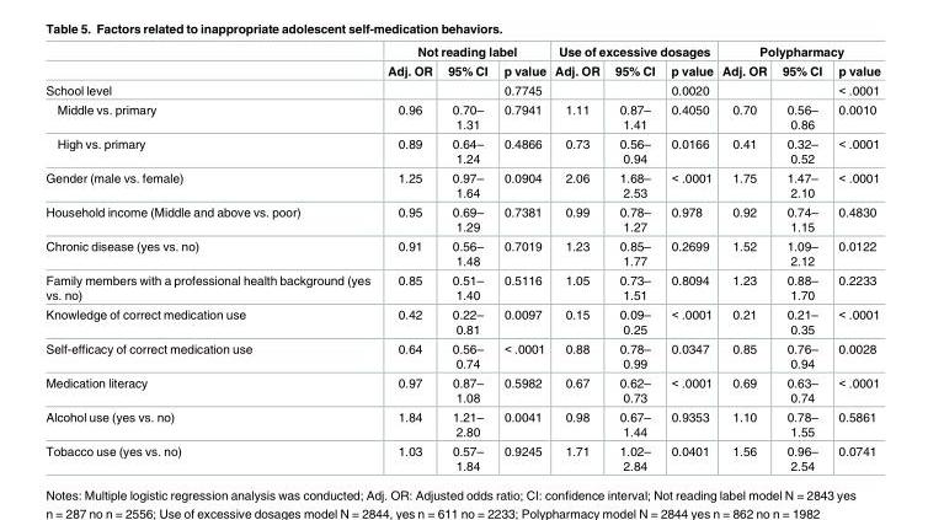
<table><thead><tr><td rowspan="2"></td><td colspan="3">Not reading label</td><td colspan="3">Use of excessive dosages</td><td colspan="3">Polypharmacy</td></tr><tr><td>Adj. OR</td><td>95% CI</td><td>p value</td><td>Adj. OR</td><td>95% CI</td><td>p value</td><td>Adj. OR</td><td>95% CI</td><td>p value</td></tr></thead><tbody><tr><td>School level</td><td></td><td></td><td>0.7745</td><td></td><td></td><td>0.0020</td><td></td><td></td><td>&lt; .0001</td></tr><tr><td>Middle vs. primary</td><td>0.96</td><td>0.70– 1.31</td><td>0.7941</td><td>1.11</td><td>0.87– 1.41</td><td>0.4050</td><td>0.70</td><td>0.56– 0.86</td><td>0.0010</td></tr><tr><td>High vs. primary</td><td>0.89</td><td>0.64– 1.24</td><td>0.4866</td><td>0.73</td><td>0.56– 0.94</td><td>0.0166</td><td>0.41</td><td>0.32– 0.52</td><td>&lt; .0001</td></tr><tr><td>Gender (male vs. female)</td><td>1.25</td><td>0.97– 1.64</td><td>0.0904</td><td>2.06</td><td>1.68– 2.53</td><td>&lt; .0001</td><td>1.75</td><td>1.47– 2.10</td><td>&lt; .0001</td></tr><tr><td>Household income (Middle and above vs. poor)</td><td>0.95</td><td>0.69– 1.29</td><td>0.7381</td><td>0.99</td><td>0.78– 1.27</td><td>0.978</td><td>0.92</td><td>0.74– 1.15</td><td>0.4830</td></tr><tr><td>Chronic disease (yes vs. no)</td><td>0.91</td><td>0.56– 1.48</td><td>0.7019</td><td>1.23</td><td>0.85– 1.77</td><td>0.2699</td><td>1.52</td><td>1.09– 2.12</td><td>0.0122</td></tr><tr><td>Family members with a professional health background (yes vs. no)</td><td>0.85</td><td>0.51– 1.40</td><td>0.5116</td><td>1.05</td><td>0.73– 1.51</td><td>0.8094</td><td>1.23</td><td>0.88– 1.70</td><td>0.2233</td></tr><tr><td>Knowledge of correct medication use</td><td>0.42</td><td>0.22– 0.81</td><td>0.0097</td><td>0.15</td><td>0.09– 0.25</td><td>&lt; .0001</td><td>0.21</td><td>0.21– 0.35</td><td>&lt; .0001</td></tr><tr><td>Self-efficacy of correct medication use</td><td>0.64</td><td>0.56– 0.74</td><td>&lt; .0001</td><td>0.88</td><td>0.78– 0.99</td><td>0.0347</td><td>0.85</td><td>0.76– 0.94</td><td>0.0028</td></tr><tr><td>Medication literacy</td><td>0.97</td><td>0.87– 1.08</td><td>0.5982</td><td>0.67</td><td>0.62– 0.73</td><td>&lt; .0001</td><td>0.69</td><td>0.63– 0.74</td><td>&lt; .0001</td></tr><tr><td>Alcohol use (yes vs. no)</td><td>1.84</td><td>1.21– 2.80</td><td>0.0041</td><td>0.98</td><td>0.67– 1.44</td><td>0.9353</td><td>1.10</td><td>0.78– 1.55</td><td>0.5861</td></tr><tr><td>Tobacco use (yes vs. no)</td><td>1.03</td><td>0.57– 1.84</td><td>0.9245</td><td>1.71</td><td>1.02– 2.84</td><td>0.0401</td><td>1.56</td><td>0.96– 2.54</td><td>0.0741</td></tr></tbody></table>